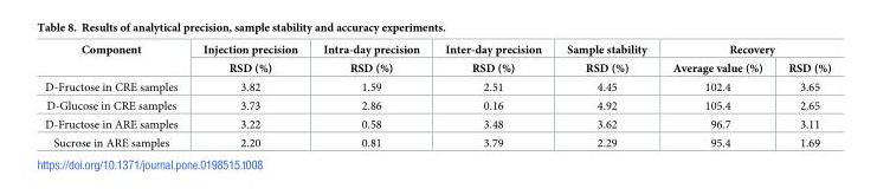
<table><thead><tr><td rowspan="2">Component</td><td rowspan="2">Injection precision RSD (%)</td><td rowspan="2">Intra-day precision RSD (%)</td><td rowspan="2">Inter-day precision RSD (%)</td><td rowspan="2">Sample stability RSD (%)</td><td colspan="2">Recovery</td></tr><tr><td>Average value (%)</td><td>RSD (%)</td></tr></thead><tbody><tr><td>D-Fructose in CRE samples</td><td>3.82</td><td>1.59</td><td>2.51</td><td>4.45</td><td>102.4</td><td>3.65</td></tr><tr><td>D-Glucose in CRE samples</td><td>3.73</td><td>2.86</td><td>0.16</td><td>4.92</td><td>105.4</td><td>2.65</td></tr><tr><td>D-Fructose in ARE samples</td><td>3.22</td><td>0.58</td><td>3.48</td><td>3.62</td><td>96.7</td><td>3.11</td></tr><tr><td>Sucrose in ARE samples</td><td>2.20</td><td>0.81</td><td>3.79</td><td>2.29</td><td>95.4</td><td>1.69</td></tr></tbody></table>